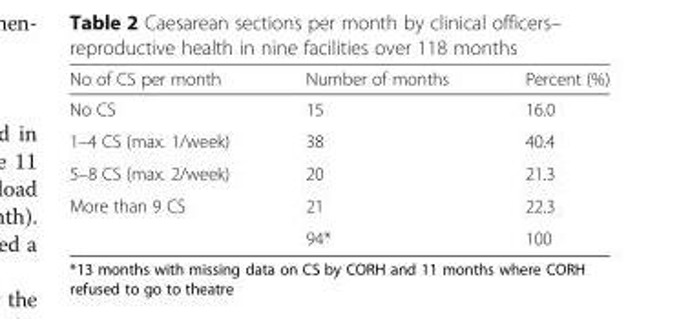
<table><thead><tr><td>No of CS per month</td><td>Number of months</td><td>Percent (%)</td></tr></thead><tbody><tr><td>No CS</td><td>15</td><td>16.0</td></tr><tr><td>1–4 CS (max. 1/week)</td><td>38</td><td>40.4</td></tr><tr><td>5–8 CS (max. 2/week)</td><td>20</td><td>21.3</td></tr><tr><td rowspan="2">More than 9 CS</td><td>21</td><td>22.3</td></tr><tr><td>94*</td><td>100</td></tr></tbody></table>